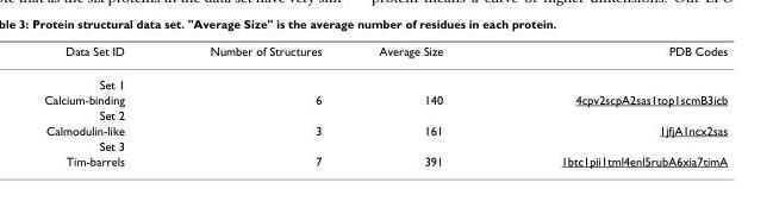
<table><thead><tr><td>Data Set ID</td><td>Number of Structures</td><td>Average Size</td><td>PDB Codes</td></tr></thead><tbody><tr><td colspan="4">Set 1</td></tr><tr><td>Calcium-binding</td><td>6</td><td>140</td><td>4cpv2scpA2sas1top1scmB3icb</td></tr><tr><td colspan="4">Set 2</td></tr><tr><td>Calmodulin-like</td><td>3</td><td>161</td><td>1jfjA1ncx2sas</td></tr><tr><td colspan="4">Set 3</td></tr><tr><td>Tim-barrels</td><td>7</td><td>391</td><td>1btc1pii1tml4enl5rubA6xia7timA</td></tr></tbody></table>